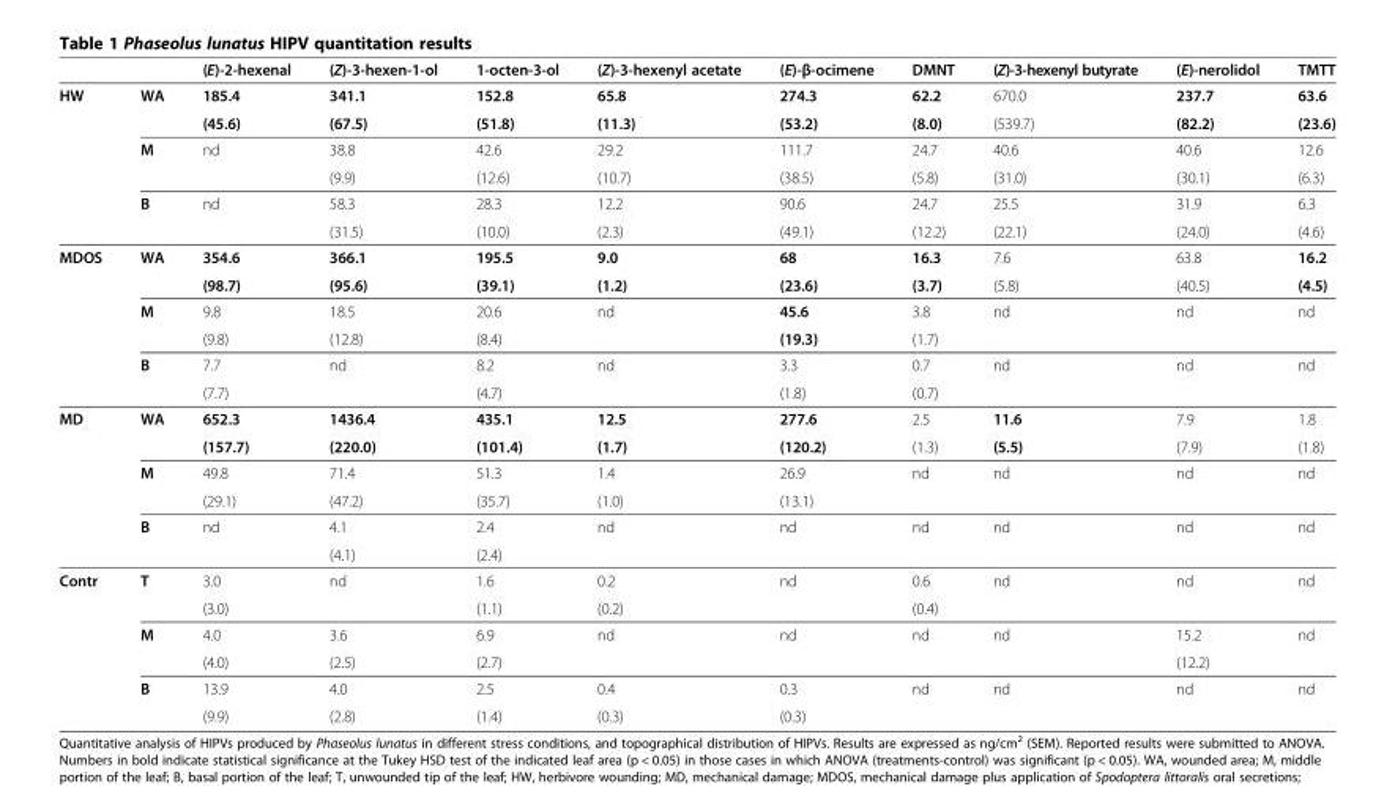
<table><thead><tr><td></td><td></td><td>(E)-2-hexenal</td><td>(Z)-3-hexen-1-ol</td><td>1-octen-3-ol</td><td>(Z)-3-hexenyl acetate</td><td>(E)-β-ocimene</td><td>DMNT</td><td>(Z)-3-hexenyl butyrate</td><td>(E)-nerolidol</td><td>TMTT</td></tr></thead><tbody><tr><td rowspan="6">HW</td><td rowspan="2">WA</td><td>185.4</td><td>341.1</td><td>152.8</td><td>65.8</td><td>274.3</td><td>62.2</td><td>670.0</td><td>237.7</td><td>63.6</td></tr><tr><td>(45.6)</td><td>(67.5)</td><td>(51.8)</td><td>(11.3)</td><td>(53.2)</td><td>(8.0)</td><td>(539.7)</td><td>(82.2)</td><td>(23.6)</td></tr><tr><td rowspan="2">M</td><td rowspan="2">nd</td><td>38.8</td><td>42.6</td><td>29.2</td><td>111.7</td><td>24.7</td><td>40.6</td><td>40.6</td><td>12.6</td></tr><tr><td>(9.9)</td><td>(12.6)</td><td>(10.7)</td><td>(38.5)</td><td>(5.8)</td><td>(31.0)</td><td>(30.1)</td><td>(6.3)</td></tr><tr><td rowspan="2">B</td><td rowspan="2">nd</td><td>58.3</td><td>28.3</td><td>12.2</td><td>90.6</td><td>24.7</td><td>25.5</td><td>31.9</td><td>6.3</td></tr><tr><td>(31.5)</td><td>(10.0)</td><td>(2.3)</td><td>(49.1)</td><td>(12.2)</td><td>(22.1)</td><td>(24.0)</td><td>(4.6)</td></tr><tr><td rowspan="6">MDOS</td><td rowspan="2">WA</td><td>354.6</td><td>366.1</td><td>195.5</td><td>9.0</td><td>68</td><td>16.3</td><td>7.6</td><td>63.8</td><td>16.2</td></tr><tr><td>(98.7)</td><td>(95.6)</td><td>(39.1)</td><td>(1.2)</td><td>(23.6)</td><td>(3.7)</td><td>(5.8)</td><td>(40.5)</td><td>(4.5)</td></tr><tr><td rowspan="2">M</td><td>9.8</td><td>18.5</td><td>20.6</td><td rowspan="2">nd</td><td>45.6</td><td>3.8</td><td rowspan="2">nd</td><td rowspan="2">nd</td><td rowspan="2">nd</td></tr><tr><td>(9.8)</td><td>(12.8)</td><td>(8.4)</td><td>(19.3)</td><td>(1.7)</td></tr><tr><td rowspan="2">B</td><td>7.7</td><td rowspan="2">nd</td><td>8.2</td><td rowspan="2">nd</td><td>3.3</td><td>0.7</td><td rowspan="2">nd</td><td rowspan="2">nd</td><td rowspan="2">nd</td></tr><tr><td>(7.7)</td><td>(4.7)</td><td>(1.8)</td><td>(0.7)</td></tr><tr><td rowspan="6">MD</td><td rowspan="2">WA</td><td>652.3</td><td>1436.4</td><td>435.1</td><td>12.5</td><td>277.6</td><td>2.5</td><td>11.6</td><td>7.9</td><td>1.8</td></tr><tr><td>(157.7)</td><td>(220.0)</td><td>(101.4)</td><td>(1.7)</td><td>(120.2)</td><td>(1.3)</td><td>(5.5)</td><td>(7.9)</td><td>(1.8)</td></tr><tr><td rowspan="2">M</td><td>49.8</td><td>71.4</td><td>51.3</td><td>1.4</td><td>26.9</td><td rowspan="2">nd</td><td rowspan="2">nd</td><td rowspan="2">nd</td><td rowspan="2">nd</td></tr><tr><td>(29.1)</td><td>(47.2)</td><td>(35.7)</td><td>(1.0)</td><td>(13.1)</td></tr><tr><td rowspan="2">B</td><td rowspan="2">nd</td><td>4.1</td><td>2.4</td><td rowspan="2">nd</td><td rowspan="2">nd</td><td rowspan="2">nd</td><td rowspan="2">nd</td><td rowspan="2">nd</td><td rowspan="2">nd</td></tr><tr><td>(4.1)</td><td>(2.4)</td></tr><tr><td rowspan="6">Contr</td><td rowspan="2">T</td><td>3.0</td><td>nd</td><td>1.6</td><td>0.2</td><td>nd</td><td>0.6</td><td rowspan="2">nd</td><td rowspan="2">nd</td><td rowspan="2">nd</td></tr><tr><td>(3.0)</td><td></td><td>(1.1)</td><td>(0.2)</td><td></td><td>(0.4)</td></tr><tr><td rowspan="2">M</td><td>4.0</td><td>3.6</td><td>6.9</td><td rowspan="2">nd</td><td rowspan="2">nd</td><td rowspan="2">nd</td><td rowspan="2">nd</td><td>15.2</td><td rowspan="2">nd</td></tr><tr><td>(4.0)</td><td>(2.5)</td><td>(2.7)</td><td>(12.2)</td></tr><tr><td rowspan="2">B</td><td>13.9</td><td>4.0</td><td>2.5</td><td>0.4</td><td>0.3</td><td rowspan="2">nd</td><td rowspan="2">nd</td><td rowspan="2">nd</td><td rowspan="2">nd</td></tr><tr><td>(9.9)</td><td>(2.8)</td><td>(1.4)</td><td>(0.3)</td><td>(0.3)</td></tr></tbody></table>